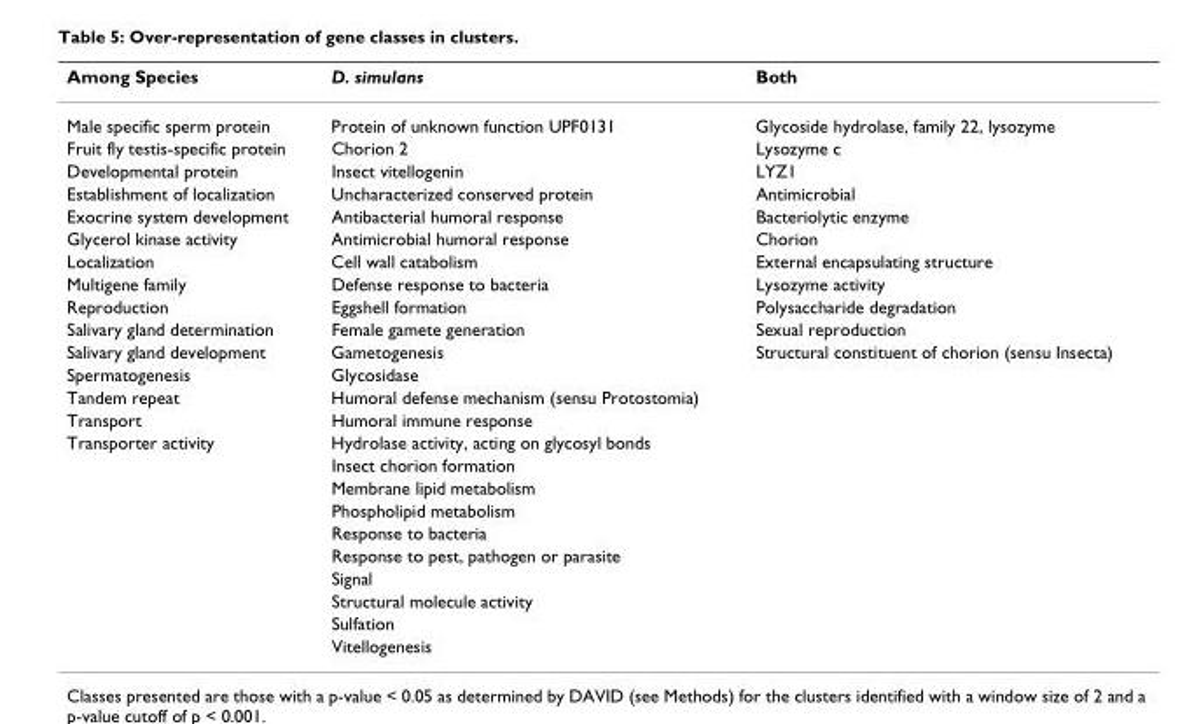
<table><thead><tr><td>Among Species</td><td>D. simulans</td><td>Both</td></tr></thead><tbody><tr><td>Male specific sperm protein</td><td>Protein of unknown function UPF0131</td><td>Glycoside hydrolase, family 22, lysozyme</td></tr><tr><td>Fruit fly testis-specific protein</td><td>Chorion 2</td><td>Lysozyme c</td></tr><tr><td>Developmental protein</td><td>Insect vitellogenin</td><td>LYZ1</td></tr><tr><td>Establishment of localization</td><td>Uncharacterized conserved protein</td><td>Antimicrobial</td></tr><tr><td>Exocrine system development</td><td>Antibacterial humoral response</td><td>Bacteriolytic enzyme</td></tr><tr><td>Glycerol kinase activity</td><td>Antimicrobial humoral response</td><td>Chorion</td></tr><tr><td>Localization</td><td>Cell wall catabolism</td><td>External encapsulating structure</td></tr><tr><td>Multigene family</td><td>Defense response to bacteria</td><td>Lysozyme activity</td></tr><tr><td>Reproduction</td><td>Eggshell formation</td><td>Polysaccharide degradation</td></tr><tr><td>Salivary gland determination</td><td>Female gamete generation</td><td>Sexual reproduction</td></tr><tr><td>Salivary gland development</td><td>Gametogenesis</td><td>Structural constituent of chorion (sensu Insecta)</td></tr><tr><td>Spermatogenesis</td><td>Glycosidase</td><td></td></tr><tr><td>Tandem repeat</td><td>Humoral defense mechanism (sensu Protostomia)</td><td></td></tr><tr><td>Transport</td><td>Humoral immune response</td><td></td></tr><tr><td rowspan="10">Transporter activity</td><td>Hydrolase activity, acting on glycosyl bonds</td><td></td></tr><tr><td>Insect chorion formation</td><td></td></tr><tr><td>Membrane lipid metabolism</td><td></td></tr><tr><td>Phospholipid metabolism</td><td></td></tr><tr><td>Response to bacteria</td><td></td></tr><tr><td>Response to pest, pathogen or parasite</td><td></td></tr><tr><td>Signal</td><td></td></tr><tr><td>Structural molecule activity</td><td></td></tr><tr><td>Sulfation</td><td></td></tr><tr><td>Vitellogenesis</td><td></td></tr></tbody></table>